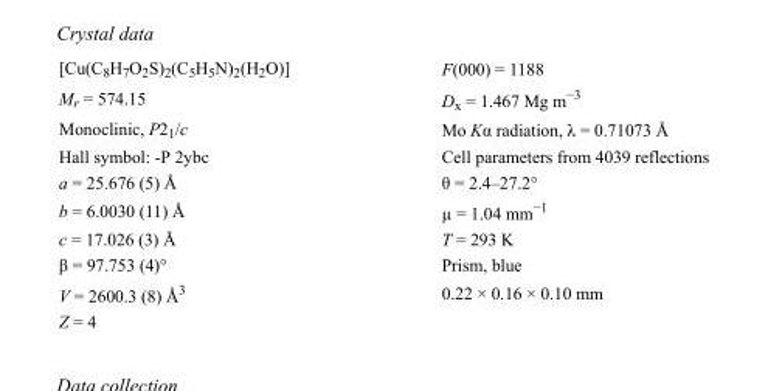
<table><tbody><tr><td>[Cu(C<sub>8</sub>H<sub>7</sub>O<sub>2</sub>S)<sub>2</sub>(C<sub>5</sub>H<sub>5</sub>N)<sub>2</sub>(H<sub>2</sub>O)]</td><td>F(000) = 1188</td></tr><tr><td>M<sub>r</sub> = 574.15</td><td>D<sub>x</sub> = 1.467 Mg m<sup>−3</sup></td></tr><tr><td>Monoclinic, P2<sub>1</sub>/c</td><td>Mo Kα radiation, λ = 0.71073 Å</td></tr><tr><td>Hall symbol: -P 2ybc</td><td>Cell parameters from 4039 reflections</td></tr><tr><td>a = 25.676 (5) Å</td><td>θ = 2.4–27.2°</td></tr><tr><td>b = 6.0030 (11) Å</td><td>µ = 1.04 mm<sup>−1</sup></td></tr><tr><td>c = 17.026 (3) Å</td><td>T = 293 K</td></tr><tr><td>β = 97.753 (4)°</td><td>Prism, blue</td></tr><tr><td>V = 2600.3 (8) Å<sup>3</sup></td><td>0.22 × 0.16 × 0.10 mm</td></tr><tr><td>Z = 4</td><td></td></tr></tbody></table>